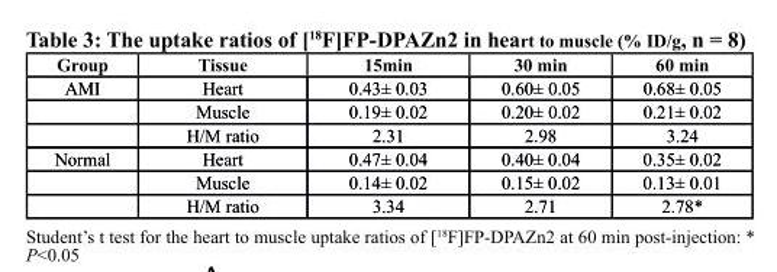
<table><thead><tr><td>Group</td><td>tissue</td><td>15min</td><td>30 min</td><td>60 min</td></tr></thead><tbody><tr><td rowspan="3">AMI</td><td>Heart</td><td>0.43± 0.03</td><td>0.60± 0.05</td><td>0.68± 0.05</td></tr><tr><td>Muscle</td><td>0.19± 0.02</td><td>0.20± 0.02</td><td>0.21± 0.02</td></tr><tr><td>H/M ratio</td><td>2.31</td><td>2.98</td><td>3.24</td></tr><tr><td rowspan="3">Normal</td><td>Heart</td><td>0.47± 0.04</td><td>0.40± 0.04</td><td>0.35± 0.02</td></tr><tr><td>Muscle</td><td>0.14± 0.02</td><td>0.15± 0.02</td><td>0.13± 0.01</td></tr><tr><td>H/M ratio</td><td>3.34</td><td>2.71</td><td>2.78*</td></tr></tbody></table>